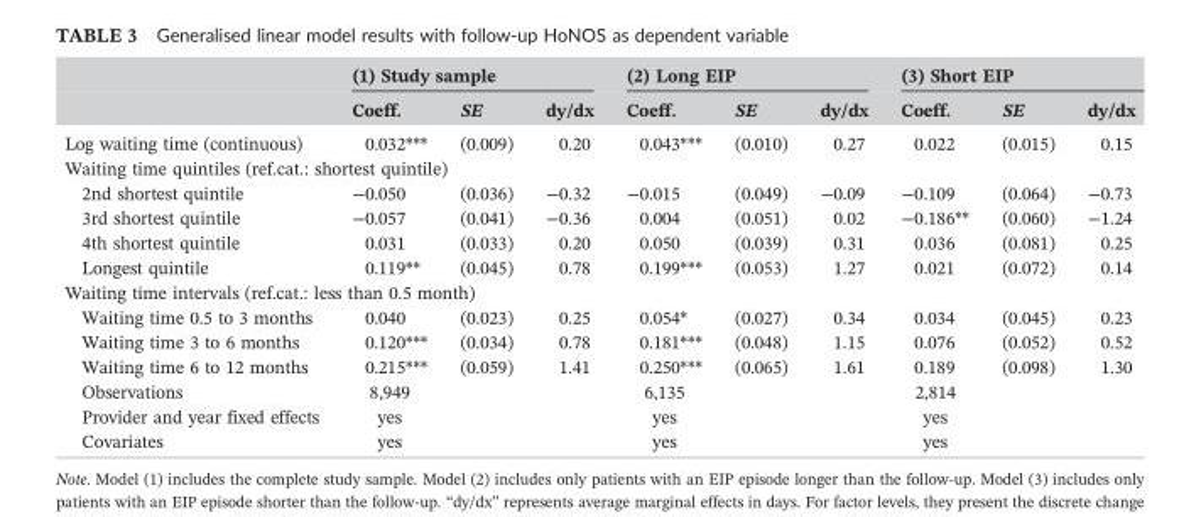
<table><thead><tr><td rowspan="2"></td><td colspan="3">(1) Study sample</td><td colspan="3">(2) Long EIP</td><td colspan="3">(3) Short EIP</td></tr><tr><td>Coeff.</td><td>SE</td><td>dy/dx</td><td>Coeff.</td><td>SE</td><td>dy/dx</td><td>Coeff.</td><td>SE</td><td>dy/dx</td></tr></thead><tbody><tr><td>Log waiting time (continuous)</td><td>0.032***</td><td>(0.009)</td><td>0.20</td><td>0.043***</td><td>(0.010)</td><td>0.27</td><td>0.022</td><td>(0.015)</td><td>0.15</td></tr><tr><td colspan="10">Waiting time quintiles (ref.cat.: shortest quintile)</td></tr><tr><td>2nd shortest quintile</td><td>−0.050</td><td>(0.036)</td><td>−0.32</td><td>−0.015</td><td>(0.049)</td><td>−0.09</td><td>−0.109</td><td>(0.064)</td><td>−0.73</td></tr><tr><td>3rd shortest quintile</td><td>−0.057</td><td>(0.041)</td><td>−0.36</td><td>0.004</td><td>(0.051)</td><td>0.02</td><td>−0.186**</td><td>(0.060)</td><td>−1.24</td></tr><tr><td>4th shortest quintile</td><td>0.031</td><td>(0.033)</td><td>0.20</td><td>0.050</td><td>(0.039)</td><td>0.31</td><td>0.036</td><td>(0.081)</td><td>0.25</td></tr><tr><td>Longest quintile</td><td>0.119**</td><td>(0.045)</td><td>0.78</td><td>0.199***</td><td>(0.053)</td><td>1.27</td><td>0.021</td><td>(0.072)</td><td>0.14</td></tr><tr><td colspan="10">Waiting time intervals (ref.cat.: less than 0.5 month)</td></tr><tr><td>Waiting time 0.5 to 3 months</td><td>0.040</td><td>(0.023)</td><td>0.25</td><td>0.054*</td><td>(0.027)</td><td>0.34</td><td>0.034</td><td>(0.045)</td><td>0.23</td></tr><tr><td>Waiting time 3 to 6 months</td><td>0.120***</td><td>(0.034)</td><td>0.78</td><td>0.181***</td><td>(0.048)</td><td>1.15</td><td>0.076</td><td>(0.052)</td><td>0.52</td></tr><tr><td>Waiting time 6 to 12 months</td><td>0.215***</td><td>(0.059)</td><td>1.41</td><td>0.250***</td><td>(0.065)</td><td>1.61</td><td>0.189</td><td>(0.098)</td><td>1.30</td></tr><tr><td>Observations</td><td>8,949</td><td></td><td></td><td>6,135</td><td></td><td></td><td>2,814</td><td></td><td></td></tr><tr><td>Provider and year fixed effects</td><td>yes</td><td></td><td></td><td>yes</td><td></td><td></td><td>yes</td><td></td><td></td></tr><tr><td>Covariates</td><td>yes</td><td></td><td></td><td>yes</td><td></td><td></td><td>yes</td><td></td><td></td></tr></tbody></table>